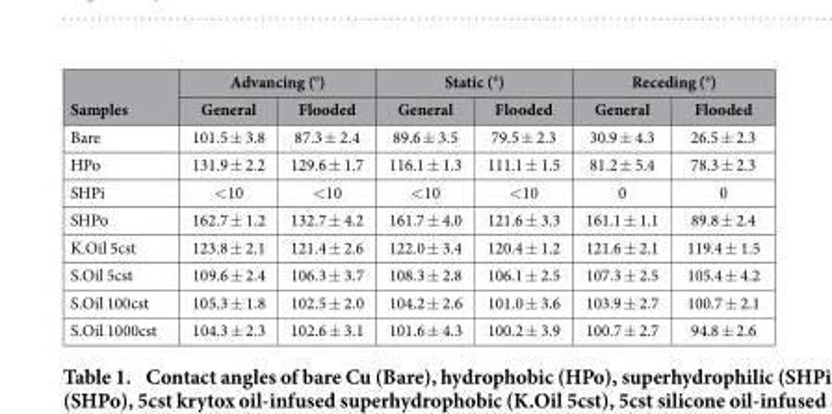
<table><thead><tr><td rowspan="2">Samples</td><td colspan="2">Advancing (°)</td><td colspan="2">Static (°)</td><td colspan="2">Receding (°)</td></tr><tr><td>General</td><td>Flooded</td><td>General</td><td>Flooded</td><td>General</td><td>Flooded</td></tr></thead><tbody><tr><td>Bare</td><td>101.5 ± 3.8</td><td>87.3 ± 2.4</td><td>89.6 ± 3.5</td><td>79.5 ± 2.3</td><td>30.9 ± 4.3</td><td>26.5 ± 2.3</td></tr><tr><td>HPo</td><td>131.9 ± 2.2</td><td>129.6 ± 1.7</td><td>116.1 ± 1.3</td><td>111.1 ± 1.5</td><td>81.2 ± 5.4</td><td>78.3 ± 2.3</td></tr><tr><td>SHPi</td><td>&lt;10</td><td>&lt;10</td><td>&lt;10</td><td>&lt;10</td><td>0</td><td>0</td></tr><tr><td>SHPo</td><td>162.7 ± 1.2</td><td>132.7 ± 4.2</td><td>161.7 ± 4.0</td><td>121.6 ± 3.3</td><td>161.1 ± 1.1</td><td>89.8 ± 2.4</td></tr><tr><td>K.Oil 5cst</td><td>123.8 ± 2.1</td><td>121.4 ± 2.6</td><td>122.0 ± 3.4</td><td>120.4 ± 1.2</td><td>121.6 ± 2.1</td><td>119.4 ± 1.5</td></tr><tr><td>S.Oil 5cst</td><td>109.6 ± 2.4</td><td>106.3 ± 3.7</td><td>108.3 ± 2.8</td><td>106.1 ± 2.5</td><td>107.3 ± 2.5</td><td>105.4 ± 4.2</td></tr><tr><td>S.Oil 100cst</td><td>105.3 ± 1.8</td><td>102.5 ± 2.0</td><td>104.2 ± 2.6</td><td>101.0 ± 3.6</td><td>103.9 ± 2.7</td><td>100.7 ± 2.1</td></tr><tr><td>S.Oil 1000cst</td><td>104.3 ± 2.3</td><td>102.6 ± 3.1</td><td>101.6 ± 4.3</td><td>100.2 ± 3.9</td><td>100.7 ± 2.7</td><td>94.8 ± 2.6</td></tr></tbody></table>